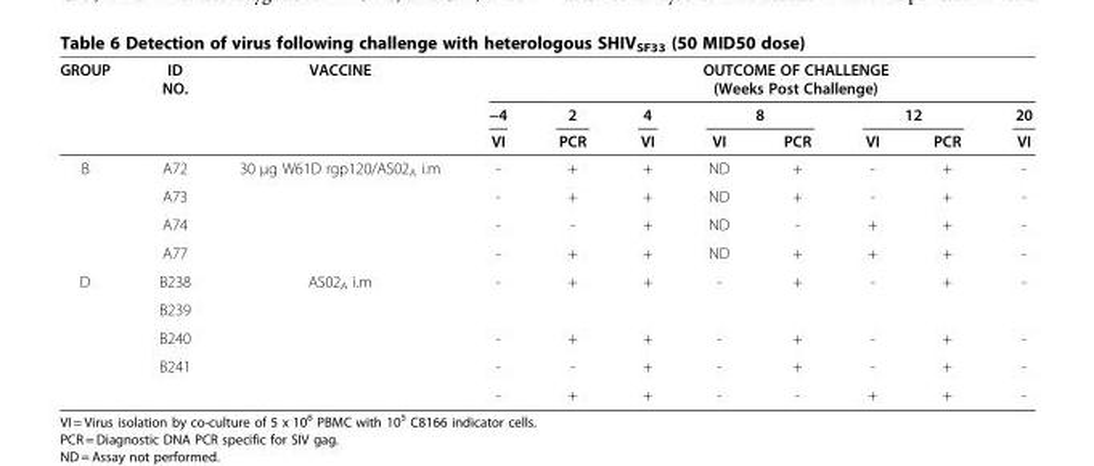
<table><thead><tr><td rowspan="3">GROUP</td><td rowspan="3">ID NO.</td><td rowspan="3">VACCINE</td><td colspan="8">OUTCOME OF CHALLENGE (Weeks Post Challenge)</td></tr><tr><td rowspan="2">−4 VI</td><td rowspan="2">2 PCR</td><td rowspan="2">4 VI</td><td colspan="2">8</td><td colspan="2">12</td><td rowspan="2">20 VI</td></tr><tr><td>VI</td><td>PCR</td><td>VI</td><td>PCR</td></tr></thead><tbody><tr><td rowspan="4">B</td><td>A72</td><td>30 μg W61D rgp120/AS02<sub>A</sub> i.m</td><td>-</td><td>+</td><td>+</td><td>ND</td><td>+</td><td>-</td><td>+</td><td>-</td></tr><tr><td>A73</td><td></td><td>-</td><td>+</td><td>+</td><td>ND</td><td>+</td><td>-</td><td>+</td><td>-</td></tr><tr><td>A74</td><td></td><td>-</td><td>-</td><td>+</td><td>ND</td><td>-</td><td>+</td><td>+</td><td>-</td></tr><tr><td>A77</td><td></td><td>-</td><td>+</td><td>+</td><td>ND</td><td>+</td><td>+</td><td>+</td><td>-</td></tr><tr><td rowspan="5">D</td><td>B238</td><td>AS02<sub>A</sub> i.m</td><td>-</td><td>+</td><td>+</td><td>-</td><td>+</td><td>-</td><td>+</td><td>-</td></tr><tr><td>B239</td><td></td><td></td><td></td><td></td><td></td><td></td><td></td><td></td><td></td></tr><tr><td>B240</td><td></td><td>-</td><td>+</td><td>+</td><td>-</td><td>+</td><td>-</td><td>+</td><td>-</td></tr><tr><td>B241</td><td></td><td>-</td><td>-</td><td>+</td><td>-</td><td>+</td><td>-</td><td>+</td><td>-</td></tr><tr><td></td><td></td><td>-</td><td>+</td><td>+</td><td>-</td><td>-</td><td>+</td><td>+</td><td>-</td></tr></tbody></table>